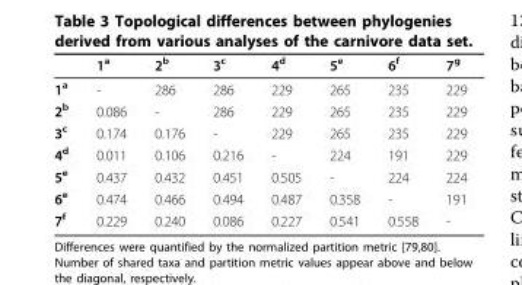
<table><thead><tr><td></td><td>1<sup>a</sup></td><td>2<sup>b</sup></td><td>3<sup>c</sup></td><td>4<sup>d</sup></td><td>5<sup>e</sup></td><td>6<sup>f</sup></td><td>7<sup>g</sup></td></tr></thead><tbody><tr><td>1<sup>a</sup></td><td>-</td><td>286</td><td>286</td><td>229</td><td>265</td><td>235</td><td>229</td></tr><tr><td>2<sup>b</sup></td><td>0.086</td><td>-</td><td>286</td><td>229</td><td>265</td><td>235</td><td>229</td></tr><tr><td>3<sup>c</sup></td><td>0.174</td><td>0.176</td><td>-</td><td>229</td><td>265</td><td>235</td><td>229</td></tr><tr><td>4<sup>d</sup></td><td>0.011</td><td>0.106</td><td>0.216</td><td>-</td><td>224</td><td>191</td><td>229</td></tr><tr><td>5<sup>e</sup></td><td>0.437</td><td>0.432</td><td>0.451</td><td>0.505</td><td>-</td><td>224</td><td>224</td></tr><tr><td>6<sup>e</sup></td><td>0.474</td><td>0.466</td><td>0.494</td><td>0.487</td><td>0.358</td><td>-</td><td>191</td></tr><tr><td>7<sup>f</sup></td><td>0.229</td><td>0.240</td><td>0.086</td><td>0.227</td><td>0.541</td><td>0.558</td><td>-</td></tr></tbody></table>